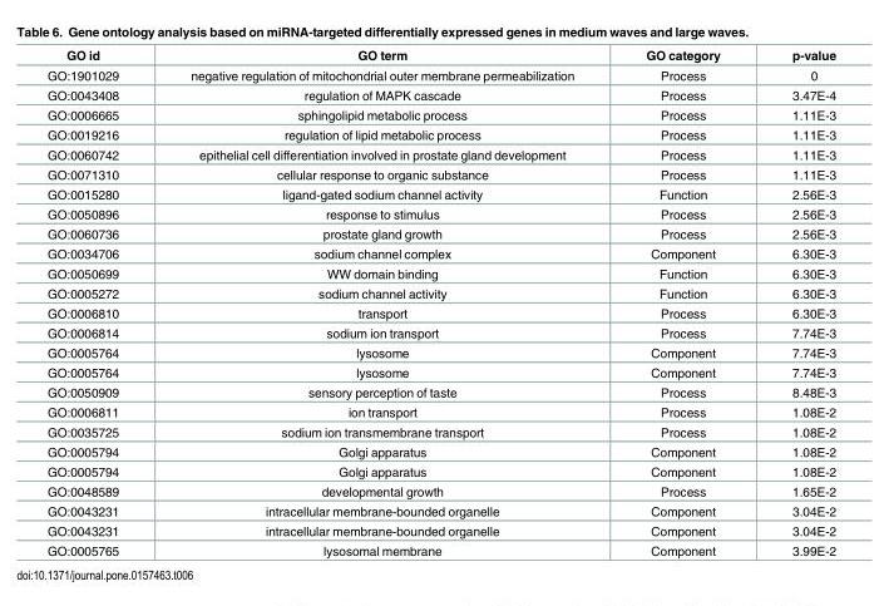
<table><thead><tr><td>GO id</td><td>GO term</td><td>GO category</td><td>p-value</td></tr></thead><tbody><tr><td>GO:1901029</td><td>negative regulation of mitochondrial outer membrane permeabilization</td><td>Process</td><td>0</td></tr><tr><td>GO:0043408</td><td>regulation of MAPK cascade</td><td>Process</td><td>3.47E-4</td></tr><tr><td>GO:0006665</td><td>sphingolipid metabolic process</td><td>Process</td><td>1.11E-3</td></tr><tr><td>GO:0019216</td><td>regulation of lipid metabolic process</td><td>Process</td><td>1.11E-3</td></tr><tr><td>GO:0060742</td><td>epithelial cell differentiation involved in prostate gland development</td><td>Process</td><td>1.11E-3</td></tr><tr><td>GO:0071310</td><td>cellular response to organic substance</td><td>Process</td><td>1.11E-3</td></tr><tr><td>GO:0015280</td><td>ligand-gated sodium channel activity</td><td>Function</td><td>2.56E-3</td></tr><tr><td>GO:0050896</td><td>response to stimulus</td><td>Process</td><td>2.56E-3</td></tr><tr><td>GO:0060736</td><td>prostate gland growth</td><td>Process</td><td>2.56E-3</td></tr><tr><td>GO:0034706</td><td>sodium channel complex</td><td>Component</td><td>6.30E-3</td></tr><tr><td>GO:0050699</td><td>WW domain binding</td><td>Function</td><td>6.30E-3</td></tr><tr><td>GO:0005272</td><td>sodium channel activity</td><td>Function</td><td>6.30E-3</td></tr><tr><td>GO:0006810</td><td>transport</td><td>Process</td><td>6.30E-3</td></tr><tr><td>GO:0006814</td><td>sodium ion transport</td><td>Process</td><td>7.74E-3</td></tr><tr><td>GO:0005764</td><td>lysosome</td><td>Component</td><td>7.74E-3</td></tr><tr><td>GO:0005764</td><td>lysosome</td><td>Component</td><td>7.74E-3</td></tr><tr><td>GO:0050909</td><td>sensory perception of taste</td><td>Process</td><td>8.48E-3</td></tr><tr><td>GO:0006811</td><td>ion transport</td><td>Process</td><td>1.08E-2</td></tr><tr><td>GO:0035725</td><td>sodium ion transmembrane transport</td><td>Process</td><td>1.08E-2</td></tr><tr><td>GO:0005794</td><td>Golgi apparatus</td><td>Component</td><td>1.08E-2</td></tr><tr><td>GO:0005794</td><td>Golgi apparatus</td><td>Component</td><td>1.08E-2</td></tr><tr><td>GO:0048589</td><td>developmental growth</td><td>Process</td><td>1.65E-2</td></tr><tr><td>GO:0043231</td><td>intracellular membrane-bounded organelle</td><td>Component</td><td>3.04E-2</td></tr><tr><td>GO:0043231</td><td>intracellular membrane-bounded organelle</td><td>Component</td><td>3.04E-2</td></tr><tr><td>GO:0005765</td><td>lysosomal membrane</td><td>Component</td><td>3.99E-2</td></tr></tbody></table>